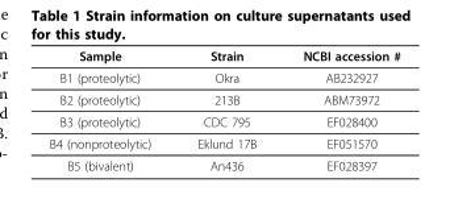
<table><thead><tr><td>Sample</td><td>Strain</td><td>NCBI accession #</td></tr></thead><tbody><tr><td>B1 (proteolytic)</td><td>Okra</td><td>AB232927</td></tr><tr><td>B2 (proteolytic)</td><td>213B</td><td>ABM73972</td></tr><tr><td>B3 (proteolytic)</td><td>CDC 795</td><td>EF028400</td></tr><tr><td>B4 (nonproteolytic)</td><td>Eklund 17B</td><td>EF051570</td></tr><tr><td>B5 (bivalent)</td><td>An436</td><td>EF028397</td></tr></tbody></table>